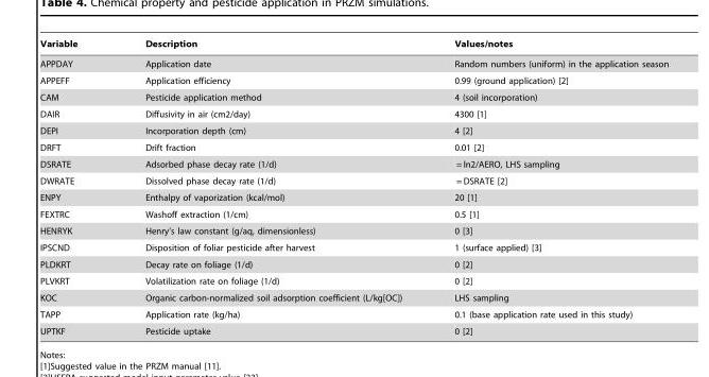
<table><thead><tr><td>Variable</td><td>Description</td><td>Values/notes</td></tr></thead><tbody><tr><td>APPDAY</td><td>Application date</td><td>Random numbers (uniform) in the application season</td></tr><tr><td>APPEFF</td><td>Application efficiency</td><td>0.99 (ground application) [2]</td></tr><tr><td>CAM</td><td>Pesticide application method</td><td>4 (soil incorporation)</td></tr><tr><td>DAIR</td><td>Diffusivity in air (cm2/day)</td><td>4300 [1]</td></tr><tr><td>DEPI</td><td>Incorporation depth (cm)</td><td>4 [2]</td></tr><tr><td>DRFT</td><td>Drift fraction</td><td>0.01 [2]</td></tr><tr><td>DSRATE</td><td>Adsorbed phase decay rate (1/d)</td><td>= ln2/AERO, LHS sampling</td></tr><tr><td>DWRATE</td><td>Dissolved phase decay rate (1/d)</td><td>= DSRATE [2]</td></tr><tr><td>ENPY</td><td>Enthalpy of vaporization (kcal/mol)</td><td>20 [1]</td></tr><tr><td>FEXTRC</td><td>Washoff extraction (1/cm)</td><td>0.5 [1]</td></tr><tr><td>HENRYK</td><td>Henry’s law constant (g/aq, dimensionless)</td><td>0 [3]</td></tr><tr><td>IPSCND</td><td>Disposition of foliar pesticide after harvest</td><td>1 (surface applied) [3]</td></tr><tr><td>PLDKRT</td><td>Decay rate on foliage (1/d)</td><td>0 [2]</td></tr><tr><td>PLVKRT</td><td>Volatilization rate on foliage (1/d)</td><td>0 [2]</td></tr><tr><td>KOC</td><td>Organic carbon-normalized soil adsorption coefficient (L/kg[OC])</td><td>LHS sampling</td></tr><tr><td>TAPP</td><td>Application rate (kg/ha)</td><td>0.1 (base application rate used in this study)</td></tr><tr><td>UPTKF</td><td>Pesticide uptake</td><td>0 [2]</td></tr></tbody></table>